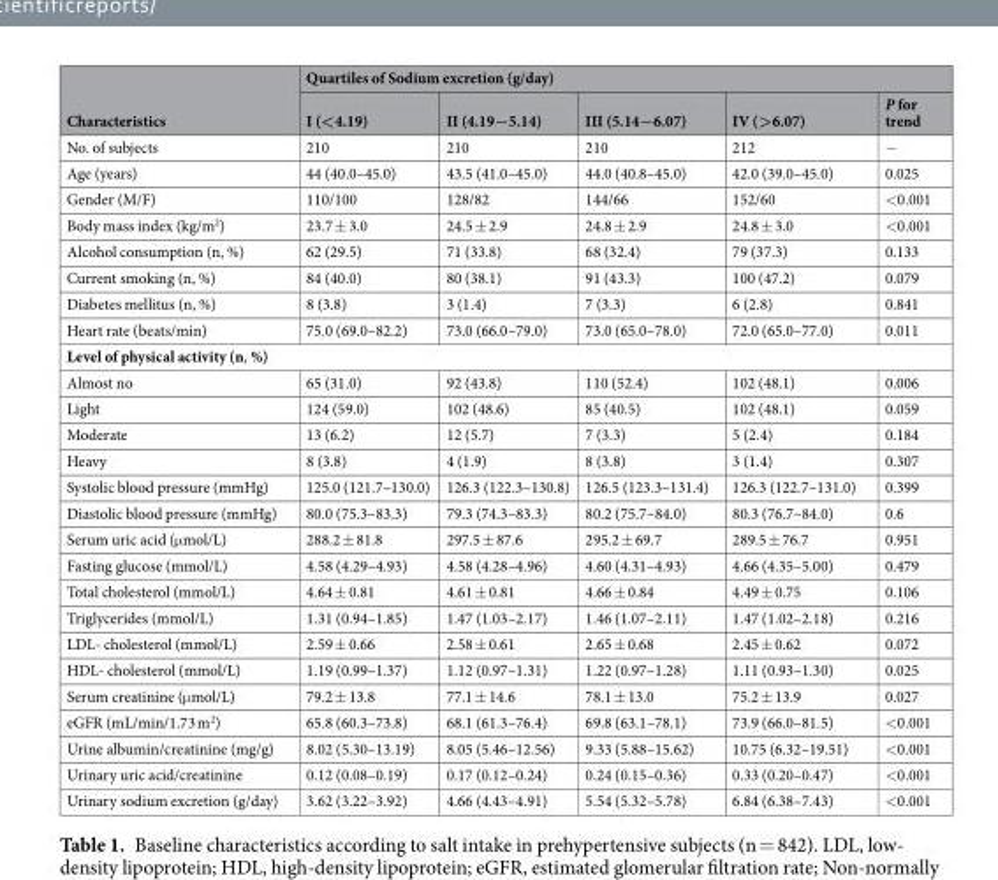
<table><thead><tr><td rowspan="2">Characteristics</td><td colspan="5">Quartiles of Sodium excretion (g/day)</td></tr><tr><td>I (&lt;4.19)</td><td>II (4.19−5.14)</td><td>III (5.14−6.07)</td><td>IV (&gt;6.07)</td><td>P for trend</td></tr></thead><tbody><tr><td>No. of subjects</td><td>210</td><td>210</td><td>210</td><td>212</td><td>−</td></tr><tr><td>Age (years)</td><td>44 (40.0–45.0)</td><td>43.5 (41.0–45.0)</td><td>44.0 (40.8–45.0)</td><td>42.0 (39.0–45.0)</td><td>0.025</td></tr><tr><td>Gender (M/F)</td><td>110/100</td><td>128/82</td><td>144/66</td><td>152/60</td><td>&lt;0.001</td></tr><tr><td>Body mass index (kg/m<sup>2</sup>)</td><td>23.7 ± 3.0</td><td>24.5 ± 2.9</td><td>24.8 ± 2.9</td><td>24.8 ± 3.0</td><td>&lt;0.001</td></tr><tr><td>Alcohol consumption (n, %)</td><td>62 (29.5)</td><td>71 (33.8)</td><td>68 (32.4)</td><td>79 (37.3)</td><td>0.133</td></tr><tr><td>Current smoking (n, %)</td><td>84 (40.0)</td><td>80 (38.1)</td><td>91 (43.3)</td><td>100 (47.2)</td><td>0.079</td></tr><tr><td>Diabetes mellitus (n, %)</td><td>8 (3.8)</td><td>3 (1.4)</td><td>7 (3.3)</td><td>6 (2.8)</td><td>0.841</td></tr><tr><td>Heart rate (beats/min)</td><td>75.0 (69.0–82.2)</td><td>73.0 (66.0–79.0)</td><td>73.0 (65.0–78.0)</td><td>72.0 (65.0–77.0)</td><td>0.011</td></tr><tr><td colspan="6">Level of physical activity (n, %)</td></tr><tr><td>Almost no</td><td>65 (31.0)</td><td>92 (43.8)</td><td>110 (52.4)</td><td>102 (48.1)</td><td>0.006</td></tr><tr><td>Light</td><td>124 (59.0)</td><td>102 (48.6)</td><td>85 (40.5)</td><td>102 (48.1)</td><td>0.059</td></tr><tr><td>Moderate</td><td>13 (6.2)</td><td>12 (5.7)</td><td>7 (3.3)</td><td>5 (2.4)</td><td>0.184</td></tr><tr><td>Heavy</td><td>8 (3.8)</td><td>4 (1.9)</td><td>8 (3.8)</td><td>3 (1.4)</td><td>0.307</td></tr><tr><td>Systolic blood pressure (mmHg)</td><td>125.0 (121.7–130.0)</td><td>126.3 (122.3–130.8)</td><td>126.5 (123.3–131.4)</td><td>126.3 (122.7–131.0)</td><td>0.399</td></tr><tr><td>Diastolic blood pressure (mmHg)</td><td>80.0 (75.3–83.3)</td><td>79.3 (74.3–83.3)</td><td>80.2 (75.7–84.0)</td><td>80.3 (76.7–84.0)</td><td>0.6</td></tr><tr><td>Serum uric acid (μmol/L)</td><td>288.2 ± 81.8</td><td>297.5 ± 87.6</td><td>295.2 ± 69.7</td><td>289.5 ± 76.7</td><td>0.951</td></tr><tr><td>Fasting glucose (mmol/L)</td><td>4.58 (4.29–4.93)</td><td>4.58 (4.28–4.96)</td><td>4.60 (4.31–4.93)</td><td>4.66 (4.35–5.00)</td><td>0.479</td></tr><tr><td>Total cholesterol (mmol/L)</td><td>4.64 ± 0.81</td><td>4.61 ± 0.81</td><td>4.66 ± 0.84</td><td>4.49 ± 0.75</td><td>0.106</td></tr><tr><td>Triglycerides (mmol/L)</td><td>1.31 (0.94–1.85)</td><td>1.47 (1.03–2.17)</td><td>1.46 (1.07–2.11)</td><td>1.47 (1.02–2.18)</td><td>0.216</td></tr><tr><td>LDL- cholesterol (mmol/L)</td><td>2.59 ± 0.66</td><td>2.58 ± 0.61</td><td>2.65 ± 0.68</td><td>2.45 ± 0.62</td><td>0.072</td></tr><tr><td>HDL- cholesterol (mmol/L)</td><td>1.19 (0.99–1.37)</td><td>1.12 (0.97–1.31)</td><td>1.22 (0.97–1.28)</td><td>1.11 (0.93–1.30)</td><td>0.025</td></tr><tr><td>Serum creatinine (μmol/L)</td><td>79.2 ± 13.8</td><td>77.1 ± 14.6</td><td>78.1 ± 13.0</td><td>75.2 ± 13.9</td><td>0.027</td></tr><tr><td>eGFR (mL/min/1.73 m<sup>2</sup>)</td><td>65.8 (60.3–73.8)</td><td>68.1 (61.3–76.4)</td><td>69.8 (63.1–78.1)</td><td>73.9 (66.0–81.5)</td><td>&lt;0.001</td></tr><tr><td>Urine albumin/creatinine (mg/g)</td><td>8.02 (5.30–13.19)</td><td>8.05 (5.46–12.56)</td><td>9.33 (5.88–15.62)</td><td>10.75 (6.32–19.51)</td><td>&lt;0.001</td></tr><tr><td>Urinary uric acid/creatinine</td><td>0.12 (0.08–0.19)</td><td>0.17 (0.12–0.24)</td><td>0.24 (0.15–0.36)</td><td>0.33 (0.20–0.47)</td><td>&lt;0.001</td></tr><tr><td>Urinary sodium excretion (g/day)</td><td>3.62 (3.22–3.92)</td><td>4.66 (4.43–4.91)</td><td>5.54 (5.32–5.78)</td><td>6.84 (6.38–7.43)</td><td>&lt;0.001</td></tr></tbody></table>